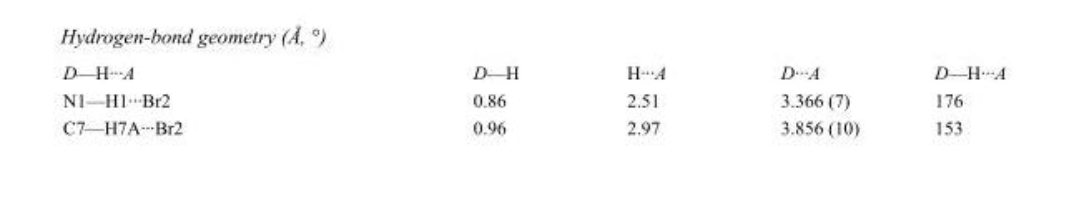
<table><tbody><tr><td>D—H···A</td><td>D—H</td><td>H···A</td><td>D···A</td><td>D—H···A</td></tr><tr><td>N1—H1···Br2</td><td>0.86</td><td>2.51</td><td>3.366 (7)</td><td>176</td></tr><tr><td>C7—H7A···Br2</td><td>0.96</td><td>2.97</td><td>3.856 (10)</td><td>153</td></tr></tbody></table>